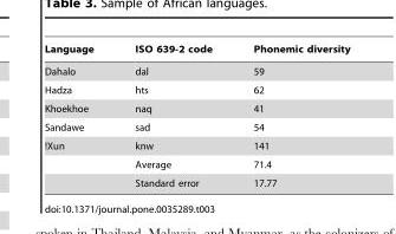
<table><thead><tr><td>Language</td><td>ISO 639-2 code</td><td>Phonemic diversity</td></tr></thead><tbody><tr><td>Dahalo</td><td>dal</td><td>59</td></tr><tr><td>Hadza</td><td>hts</td><td>62</td></tr><tr><td>Khoekhoe</td><td>naq</td><td>41</td></tr><tr><td>Sandawe</td><td>sad</td><td>54</td></tr><tr><td rowspan="3">!Xun</td><td>knw</td><td>141</td></tr><tr><td>Average</td><td>71.4</td></tr><tr><td>Standard error</td><td>17.77</td></tr></tbody></table>